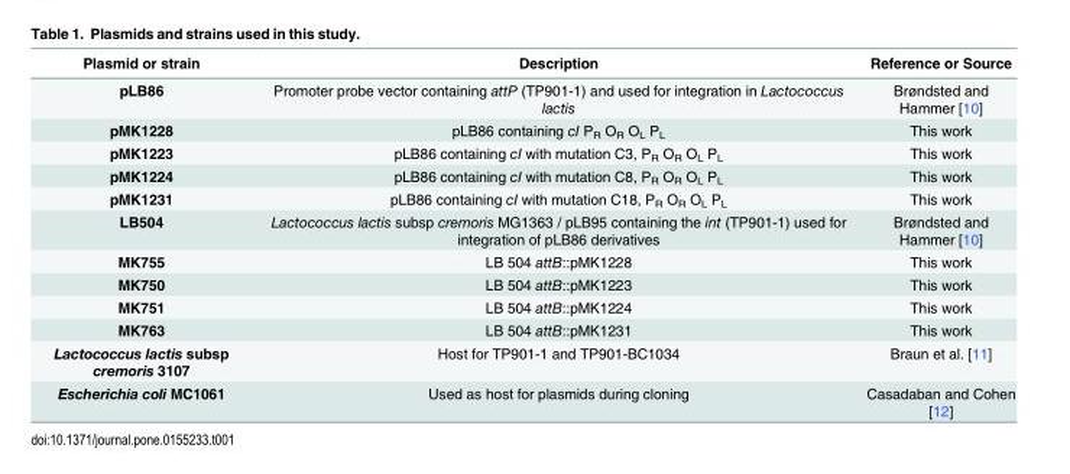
<table><thead><tr><td>Plasmid or strain</td><td>Description</td><td>Reference or Source</td></tr></thead><tbody><tr><td>pLB86</td><td>Promoter probe vector containing attP (TP901-1) and used for integration in Lactococcus lactis</td><td>Brøndsted and Hammer [10]</td></tr><tr><td>pMK1228</td><td>pLB86 containing cI P<sub>R</sub> O<sub>R</sub> O<sub>L</sub> P<sub>L</sub></td><td>This work</td></tr><tr><td>pMK1223</td><td>pLB86 containing cI with mutation C3, P<sub>R</sub> O<sub>R</sub> O<sub>L</sub> P<sub>L</sub></td><td>This work</td></tr><tr><td>pMK1224</td><td>pLB86 containing cI with mutation C8, P<sub>R</sub> O<sub>R</sub> O<sub>L</sub> P<sub>L</sub></td><td>This work</td></tr><tr><td>pMK1231</td><td>pLB86 containing cI with mutation C18, P<sub>R</sub> O<sub>R</sub> O<sub>L</sub> P<sub>L</sub></td><td>This work</td></tr><tr><td>LB504</td><td>Lactococcus lactis subsp cremoris MG1363 / pLB95 containing the int (TP901-1) used for integration of pLB86 derivatives</td><td>Brøndsted and Hammer [10]</td></tr><tr><td>MK755</td><td>LB 504 attB::pMK1228</td><td>This work</td></tr><tr><td>MK750</td><td>LB 504 attB::pMK1223</td><td>This work</td></tr><tr><td>MK751</td><td>LB 504 attB::pMK1224</td><td>This work</td></tr><tr><td>MK763</td><td>LB 504 attB::pMK1231</td><td>This work</td></tr><tr><td>Lactococcus lactis subsp cremoris 3107</td><td>Host for TP901-1 and TP901-BC1034</td><td>Braun et al. [11]</td></tr><tr><td>Escherichia coli MC1061</td><td>Used as host for plasmids during cloning</td><td>Casadaban and Cohen [12]</td></tr></tbody></table>